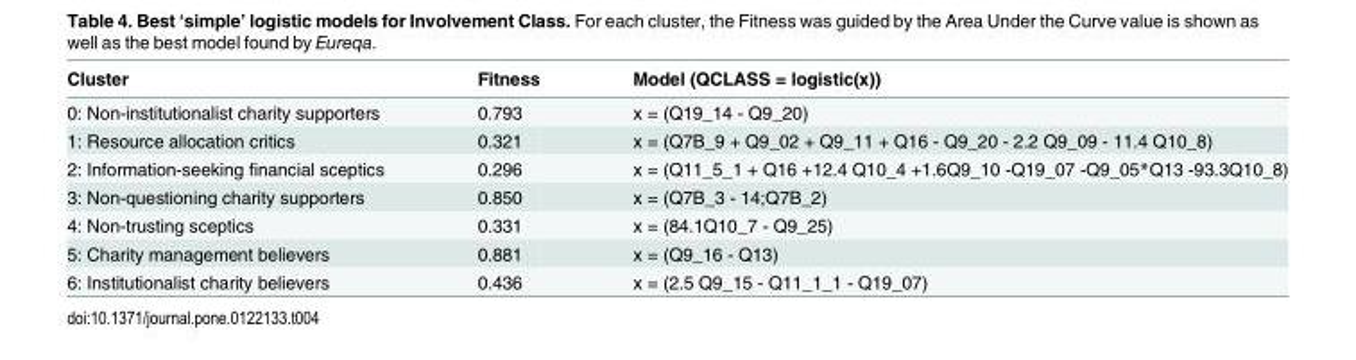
<table><thead><tr><td>Cluster</td><td>Fitness</td><td>Model (QCLASS = logistic(x))</td></tr></thead><tbody><tr><td>0: Non-institutionalist charity supporters</td><td>0.793</td><td>x = (Q19_14 - Q9_20)</td></tr><tr><td>1: Resource allocation critics</td><td>0.321</td><td>x = (Q7B_9 + Q9_02 + Q9_11 + Q16 - Q9_20 - 2.2 Q9_09 - 11.4 Q10_8)</td></tr><tr><td>2: Information-seeking financial sceptics</td><td>0.296</td><td>x = (Q11_5_1 + Q16 +12.4 Q10_4 +1.6Q9_10 -Q19_07 -Q9_05*Q13 -93.3Q10_8)</td></tr><tr><td>3: Non-questioning charity supporters</td><td>0.850</td><td>x = (Q7B_3 - 14;Q7B_2)</td></tr><tr><td>4: Non-trusting sceptics</td><td>0.331</td><td>x = (84.1Q10_7 - Q9_25)</td></tr><tr><td>5: Charity management believers</td><td>0.881</td><td>x = (Q9_16 - Q13)</td></tr><tr><td>6: Institutionalist charity believers</td><td>0.436</td><td>x = (2.5 Q9_15 - Q11_1_1 - Q19_07)</td></tr></tbody></table>